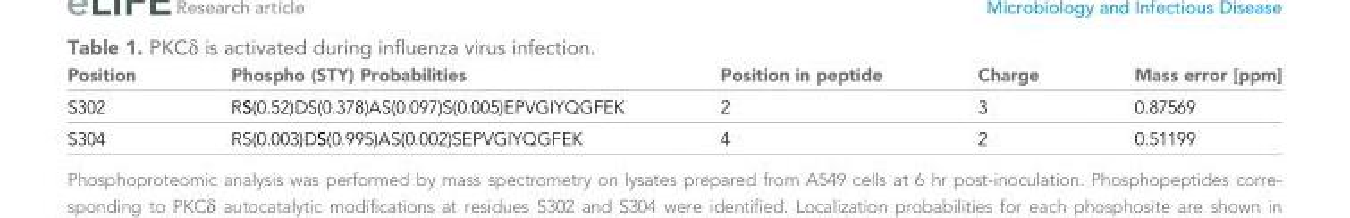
<table><thead><tr><td>Position</td><td>Phospho (STY) Probabilities</td><td>Position in peptide</td><td>Charge</td><td>Mass error [ppm]</td></tr></thead><tbody><tr><td>S302</td><td>RS(0.52)DS(0.378)AS(0.097)S(0.005)EPVGIYQGFEK</td><td>2</td><td>3</td><td>0.87569</td></tr><tr><td>S304</td><td>RS(0.003)DS(0.995)AS(0.002)SEPVGIYQGFEK</td><td>4</td><td>2</td><td>0.51199</td></tr></tbody></table>